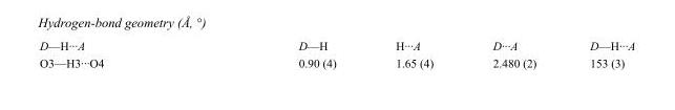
<table><tbody><tr><td>D—H···A</td><td>D—H</td><td>H···A</td><td>D···A</td><td>D—H···A</td></tr><tr><td>O3—H3···O4</td><td>0.90 (4)</td><td>1.65 (4)</td><td>2.480 (2)</td><td>153 (3)</td></tr></tbody></table>